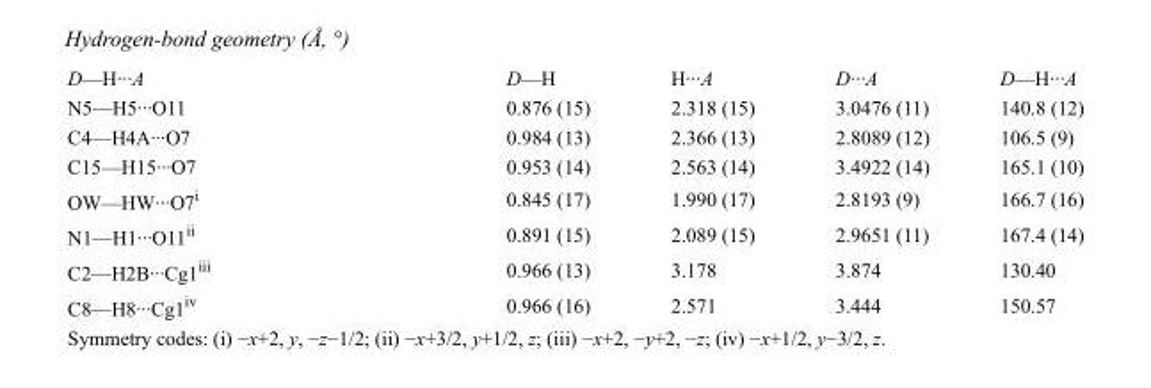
<table><tbody><tr><td>D—H···A</td><td>D—H</td><td>H···A</td><td>D···A</td><td>D—H···A</td></tr><tr><td>N5—H5···O11</td><td>0.876 (15)</td><td>2.318 (15)</td><td>3.0476 (11)</td><td>140.8 (12)</td></tr><tr><td>C4—H4A···O7</td><td>0.984 (13)</td><td>2.366 (13)</td><td>2.8089 (12)</td><td>106.5 (9)</td></tr><tr><td>C15—H15···O7</td><td>0.953 (14)</td><td>2.563 (14)</td><td>3.4922 (14)</td><td>165.1 (10)</td></tr><tr><td>OW—HW···O7<sup>i</sup></td><td>0.845 (17)</td><td>1.990 (17)</td><td>2.8193 (9)</td><td>166.7 (16)</td></tr><tr><td>N1—H1···O11<sup>ii</sup></td><td>0.891 (15)</td><td>2.089 (15)</td><td>2.9651 (11)</td><td>167.4 (14)</td></tr><tr><td>C2—H2B···Cg1<sup>iii</sup></td><td>0.966 (13)</td><td>3.178</td><td>3.874</td><td>130.40</td></tr><tr><td>C8—H8···Cg1<sup>iv</sup></td><td>0.966 (16)</td><td>2.571</td><td>3.444</td><td>150.57</td></tr></tbody></table>